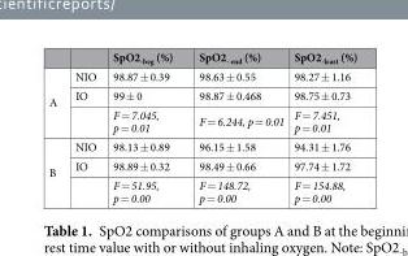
<table><thead><tr><td></td><td></td><td>SpO2<sub>-beg</sub> (%)</td><td>SpO2<sub>- end</sub> (%)</td><td>SpO2<sub>-least</sub> (%)</td></tr></thead><tbody><tr><td rowspan="3">A</td><td>NIO</td><td>98.87 ± 0.39</td><td>98.63 ± 0.55</td><td>98.27 ± 1.16</td></tr><tr><td>IO</td><td>99 ± 0</td><td>98.87 ± 0.468</td><td>98.75 ± 0.73</td></tr><tr><td></td><td>F = 7.045, p = 0.01</td><td>F = 6.244, p = 0.01</td><td>F = 7.451, p = 0.01</td></tr><tr><td rowspan="3">B</td><td>NIO</td><td>98.13 ± 0.89</td><td>96.15 ± 1.58</td><td>94.31 ± 1.76</td></tr><tr><td>IO</td><td>98.89 ± 0.32</td><td>98.49 ± 0.66</td><td>97.74 ± 1.72</td></tr><tr><td></td><td>F = 51.95, p = 0.00</td><td>F = 148.72, p = 0.00</td><td>F = 154.88, p = 0.00</td></tr></tbody></table>